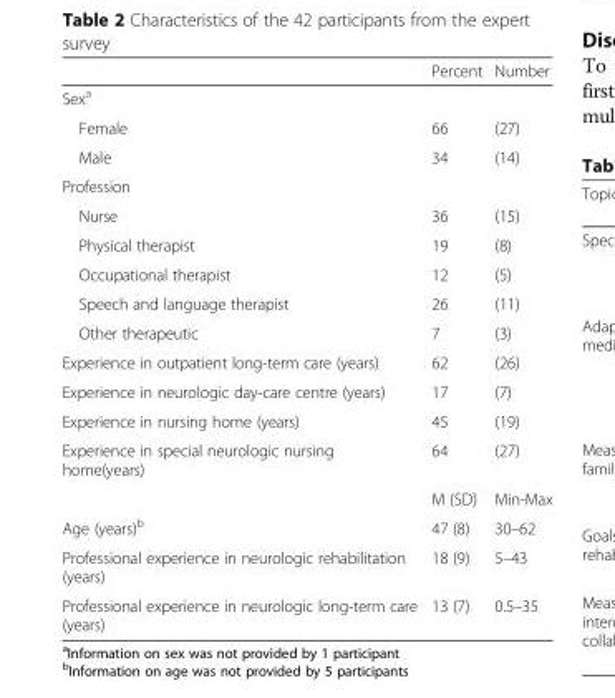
<table><thead><tr><td></td><td>Percent</td><td>Number</td></tr></thead><tbody><tr><td colspan="3">Sex<sup>a</sup></td></tr><tr><td>Female</td><td>66</td><td>(27)</td></tr><tr><td>Male</td><td>34</td><td>(14)</td></tr><tr><td colspan="3">Profession</td></tr><tr><td>Nurse</td><td>36</td><td>(15)</td></tr><tr><td>Physical therapist</td><td>19</td><td>(8)</td></tr><tr><td>Occupational therapist</td><td>12</td><td>(5)</td></tr><tr><td>Speech and language therapist</td><td>26</td><td>(11)</td></tr><tr><td>Other therapeutic</td><td>7</td><td>(3)</td></tr><tr><td>Experience in outpatient long-term care (years)</td><td>62</td><td>(26)</td></tr><tr><td>Experience in neurologic day-care centre (years)</td><td>17</td><td>(7)</td></tr><tr><td>Experience in nursing home (years)</td><td>45</td><td>(19)</td></tr><tr><td rowspan="2">Experience in special neurologic nursing home(years)</td><td>64</td><td>(27)</td></tr><tr><td>M (SD)</td><td>Min-Max</td></tr><tr><td>Age (years)<sup>b</sup></td><td>47 (8)</td><td>30–62</td></tr><tr><td>Professional experience in neurologic rehabilitation (years)</td><td>18 (9)</td><td>5–43</td></tr><tr><td>Professional experience in neurologic long-term care (years)</td><td>13 (7)</td><td>0.5–35</td></tr></tbody></table>